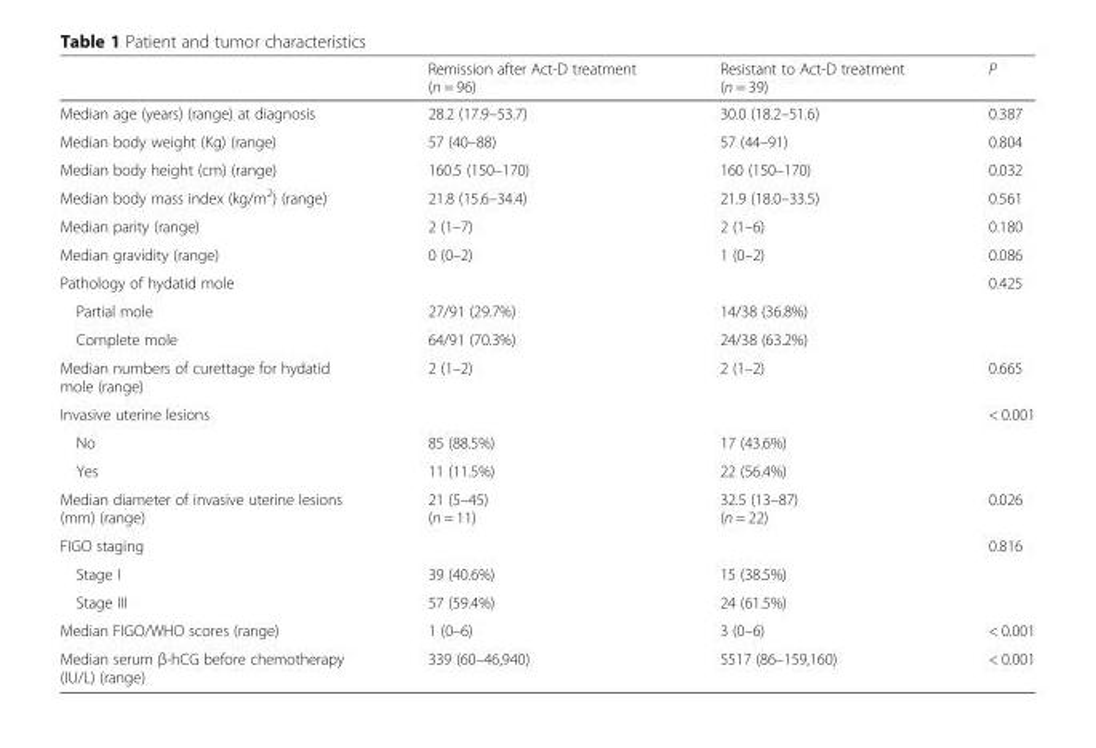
<table><thead><tr><td></td><td>Remission after Act-D treatment (n = 96)</td><td>Resistant to Act-D treatment (n = 39)</td><td>P</td></tr></thead><tbody><tr><td>Median age (years) (range) at diagnosis</td><td>28.2 (17.9–53.7)</td><td>30.0 (18.2–51.6)</td><td>0.387</td></tr><tr><td>Median body weight (Kg) (range)</td><td>57 (40–88)</td><td>57 (44–91)</td><td>0.804</td></tr><tr><td>Median body height (cm) (range)</td><td>160.5 (150–170)</td><td>160 (150–170)</td><td>0.032</td></tr><tr><td>Median body mass index (kg/m<sup>2</sup>) (range)</td><td>21.8 (15.6–34.4)</td><td>21.9 (18.0–33.5)</td><td>0.561</td></tr><tr><td>Median parity (range)</td><td>2 (1–7)</td><td>2 (1–6)</td><td>0.180</td></tr><tr><td>Median gravidity (range)</td><td>0 (0–2)</td><td>1 (0–2)</td><td>0.086</td></tr><tr><td>Pathology of hydatid mole</td><td></td><td></td><td>0.425</td></tr><tr><td>Partial mole</td><td>27/91 (29.7%)</td><td>14/38 (36.8%)</td><td></td></tr><tr><td>Complete mole</td><td>64/91 (70.3%)</td><td>24/38 (63.2%)</td><td></td></tr><tr><td>Median numbers of curettage for hydatid mole (range)</td><td>2 (1–2)</td><td>2 (1–2)</td><td>0.665</td></tr><tr><td>Invasive uterine lesions</td><td></td><td></td><td>&lt; 0.001</td></tr><tr><td>No</td><td>85 (88.5%)</td><td>17 (43.6%)</td><td></td></tr><tr><td>Yes</td><td>11 (11.5%)</td><td>22 (56.4%)</td><td></td></tr><tr><td>Median diameter of invasive uterine lesions (mm) (range)</td><td>21 (5–45) (n = 11)</td><td>32.5 (13–87) (n = 22)</td><td>0.026</td></tr><tr><td>FIGO staging</td><td></td><td></td><td>0.816</td></tr><tr><td>Stage I</td><td>39 (40.6%)</td><td>15 (38.5%)</td><td></td></tr><tr><td>Stage III</td><td>57 (59.4%)</td><td>24 (61.5%)</td><td></td></tr><tr><td>Median FIGO/WHO scores (range)</td><td>1 (0–6)</td><td>3 (0–6)</td><td>&lt; 0.001</td></tr><tr><td>Median serum β-hCG before chemotherapy (IU/L) (range)</td><td>339 (60–46,940)</td><td>5517 (86–159,160)</td><td>&lt; 0.001</td></tr></tbody></table>